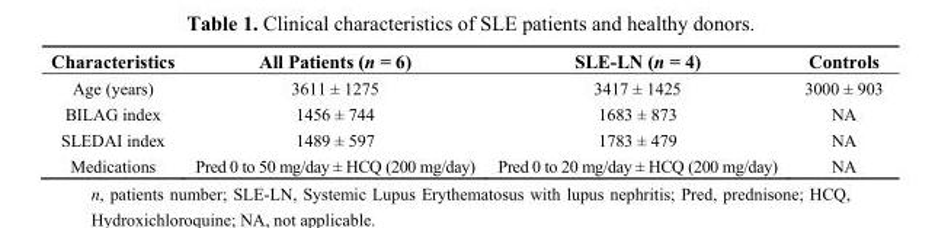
<table><thead><tr><td>Characteristics</td><td>All Patients (n = 6)</td><td>SLE-LN (n = 4)</td><td>Controls</td></tr></thead><tbody><tr><td>Age (years)</td><td>3611 ± 1275</td><td>3417 ± 1425</td><td>3000 ± 903</td></tr><tr><td>BILAG index</td><td>1456 ± 744</td><td>1683 ± 873</td><td>NA</td></tr><tr><td>SLEDAI index</td><td>1489 ± 597</td><td>1783 ± 479</td><td>NA</td></tr><tr><td>Medications</td><td>Pred 0 to 50 mg/day ± HCQ (200 mg/day)</td><td>Pred 0 to 20 mg/day ± HCQ (200 mg/day)</td><td>NA</td></tr></tbody></table>